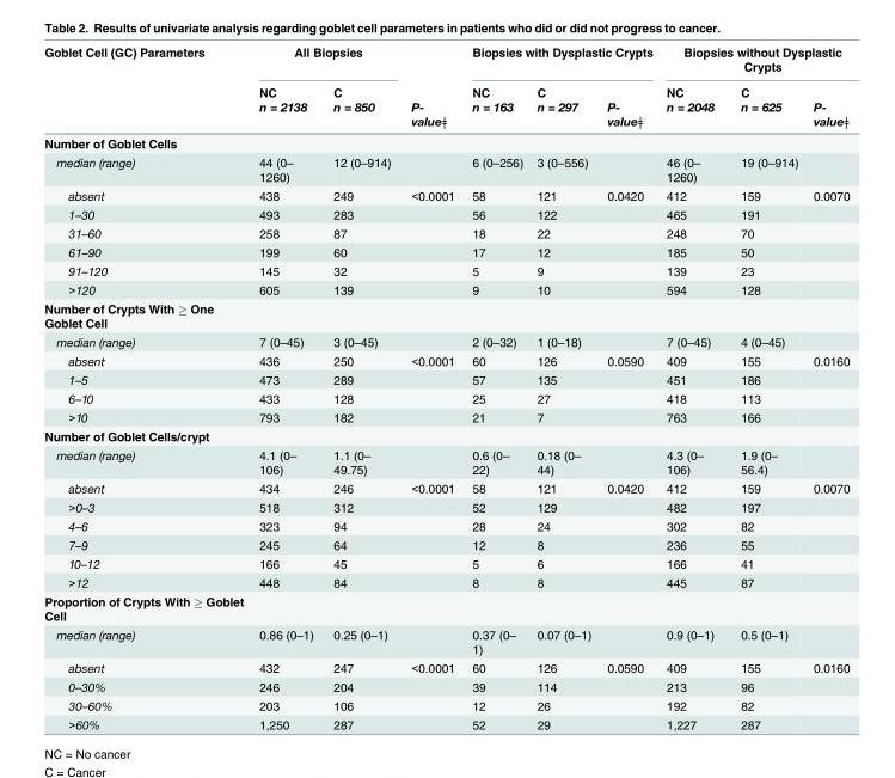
<table><thead><tr><td rowspan="3">Goblet Cell (GC) Parameters</td><td colspan="2">All Biopsies</td><td rowspan="3">P- valueǂ</td><td colspan="3">Biopsies with Dysplastic Crypts</td><td colspan="3">Biopsies without Dysplastic Crypts</td></tr><tr><td rowspan="2">NC n = 2138</td><td rowspan="2">C n = 850</td><td rowspan="2">NC n = 163</td><td rowspan="2">C n = 297</td><td rowspan="2">P- valueǂ</td><td rowspan="2">NC n = 2048</td><td rowspan="2">C n = 625</td><td rowspan="2">P- valueǂ</td></tr><tr></tr></thead><tbody><tr><td colspan="10">Number of Goblet Cells</td></tr><tr><td>median (range)</td><td>44 (0– 1260)</td><td>12 (0–914)</td><td></td><td>6 (0–256)</td><td>3 (0–556)</td><td></td><td>46 (0– 1260)</td><td>19 (0–914)</td><td></td></tr><tr><td>absent</td><td>438</td><td>249</td><td>&lt;0.0001</td><td>58</td><td>121</td><td>0.0420</td><td>412</td><td>159</td><td>0.0070</td></tr><tr><td>1–30</td><td>493</td><td>283</td><td></td><td>56</td><td>122</td><td></td><td>465</td><td>191</td><td></td></tr><tr><td>31–60</td><td>258</td><td>87</td><td></td><td>18</td><td>22</td><td></td><td>248</td><td>70</td><td></td></tr><tr><td>61–90</td><td>199</td><td>60</td><td></td><td>17</td><td>12</td><td></td><td>185</td><td>50</td><td></td></tr><tr><td>91–120</td><td>145</td><td>32</td><td></td><td>5</td><td>9</td><td></td><td>139</td><td>23</td><td></td></tr><tr><td>&gt;120</td><td>605</td><td>139</td><td></td><td>9</td><td>10</td><td></td><td>594</td><td>128</td><td></td></tr><tr><td colspan="10">Number of Crypts With ≥ One Goblet Cell</td></tr><tr><td>median (range)</td><td>7 (0–45)</td><td>3 (0–45)</td><td></td><td>2 (0–32)</td><td>1 (0–18)</td><td></td><td>7 (0–45)</td><td>4 (0–45)</td><td></td></tr><tr><td>absent</td><td>436</td><td>250</td><td>&lt;0.0001</td><td>60</td><td>126</td><td>0.0590</td><td>409</td><td>155</td><td>0.0160</td></tr><tr><td>1–5</td><td>473</td><td>289</td><td></td><td>57</td><td>135</td><td></td><td>451</td><td>186</td><td></td></tr><tr><td>6–10</td><td>433</td><td>128</td><td></td><td>25</td><td>27</td><td></td><td>418</td><td>113</td><td></td></tr><tr><td>&gt;10</td><td>793</td><td>182</td><td></td><td>21</td><td>7</td><td></td><td>763</td><td>166</td><td></td></tr><tr><td colspan="10">Number of Goblet Cells/crypt</td></tr><tr><td>median (range)</td><td>4.1 (0– 106)</td><td>1.1 (0– 49.75)</td><td></td><td>0.6 (0– 22)</td><td>0.18 (0– 44)</td><td></td><td>4.3 (0– 106)</td><td>1.9 (0– 56.4)</td><td></td></tr><tr><td>absent</td><td>434</td><td>246</td><td>&lt;0.0001</td><td>58</td><td>121</td><td>0.0420</td><td>412</td><td>159</td><td>0.0070</td></tr><tr><td>&gt;0–3</td><td>518</td><td>312</td><td></td><td>52</td><td>129</td><td></td><td>482</td><td>197</td><td></td></tr><tr><td>4–6</td><td>323</td><td>94</td><td></td><td>28</td><td>24</td><td></td><td>302</td><td>82</td><td></td></tr><tr><td>7–9</td><td>245</td><td>64</td><td></td><td>12</td><td>8</td><td></td><td>236</td><td>55</td><td></td></tr><tr><td>10–12</td><td>166</td><td>45</td><td></td><td>5</td><td>6</td><td></td><td>166</td><td>41</td><td></td></tr><tr><td>&gt;12</td><td>448</td><td>84</td><td></td><td>8</td><td>8</td><td></td><td>445</td><td>87</td><td></td></tr><tr><td colspan="10">Proportion of Crypts With ≥ Goblet Cell</td></tr><tr><td>median (range)</td><td>0.86 (0–1)</td><td>0.25 (0–1)</td><td></td><td>0.37 (0– 1)</td><td>0.07 (0–1)</td><td></td><td>0.9 (0–1)</td><td>0.5 (0–1)</td><td></td></tr><tr><td>absent</td><td>432</td><td>247</td><td>&lt;0.0001</td><td>60</td><td>126</td><td>0.0590</td><td>409</td><td>155</td><td>0.0160</td></tr><tr><td>0–30%</td><td>246</td><td>204</td><td></td><td>39</td><td>114</td><td></td><td>213</td><td>96</td><td></td></tr><tr><td>30–60%</td><td>203</td><td>106</td><td></td><td>12</td><td>26</td><td></td><td>192</td><td>82</td><td></td></tr><tr><td>&gt;60%</td><td>1,250</td><td>287</td><td></td><td>52</td><td>29</td><td></td><td>1,227</td><td>287</td><td></td></tr></tbody></table>